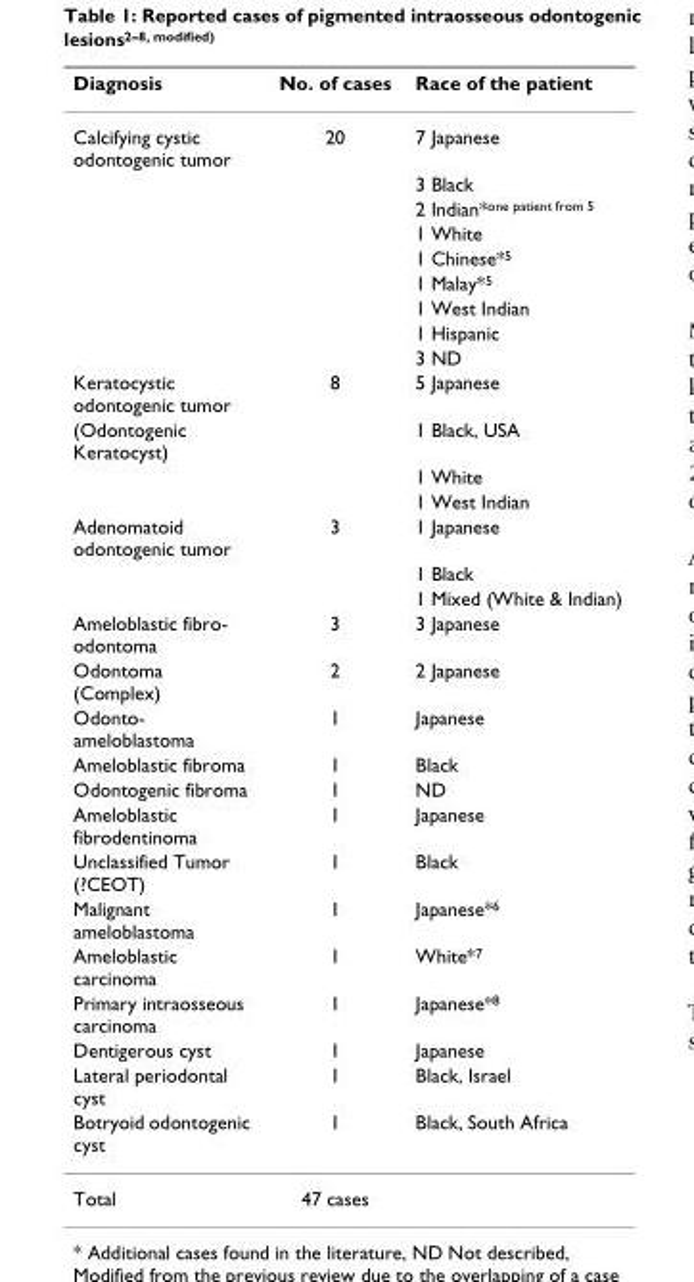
<table><thead><tr><td>Diagnosis</td><td>No. of cases</td><td>Race of the patient</td></tr></thead><tbody><tr><td rowspan="9">Calcifying cystic odontogenic tumor</td><td>20</td><td>7 Japanese</td></tr><tr><td></td><td>3 Black</td></tr><tr><td></td><td>2 Indian*<sup>one patient from 5</sup></td></tr><tr><td></td><td>1 White</td></tr><tr><td></td><td>1 Chinese*<sup>5</sup></td></tr><tr><td></td><td>1 Malay*<sup>5</sup></td></tr><tr><td></td><td>1 West Indian</td></tr><tr><td></td><td>1 Hispanic</td></tr><tr><td></td><td>3 ND</td></tr><tr><td>Keratocystic odontogenic tumor</td><td>8</td><td>5 Japanese</td></tr><tr><td rowspan="3">(Odontogenic Keratocyst)</td><td></td><td>1 Black, USA</td></tr><tr><td></td><td>1 White</td></tr><tr><td></td><td>1 West Indian</td></tr><tr><td rowspan="3">Adenomatoid odontogenic tumor</td><td>3</td><td>1 Japanese</td></tr><tr><td></td><td>1 Black</td></tr><tr><td></td><td>1 Mixed (White &amp; Indian)</td></tr><tr><td>Ameloblastic fibro- odontoma</td><td>3</td><td>3 Japanese</td></tr><tr><td>Odontoma (Complex)</td><td>2</td><td>2 Japanese</td></tr><tr><td>Odonto- ameloblastoma</td><td>1</td><td>Japanese</td></tr><tr><td>Ameloblastic fibroma</td><td>1</td><td>Black</td></tr><tr><td>Odontogenic fibroma</td><td>1</td><td>ND</td></tr><tr><td>Ameloblastic fibrodentinoma</td><td>1</td><td>Japanese</td></tr><tr><td>Unclassified Tumor (?CEOT)</td><td>1</td><td>Black</td></tr><tr><td>Malignant ameloblastoma</td><td>1</td><td>Japanese*<sup>6</sup></td></tr><tr><td>Ameloblastic carcinoma</td><td>1</td><td>White*<sup>7</sup></td></tr><tr><td>Primary intraosseous carcinoma</td><td>1</td><td>Japanese*<sup>8</sup></td></tr><tr><td>Dentigerous cyst</td><td>1</td><td>Japanese</td></tr><tr><td>Lateral periodontal cyst</td><td>1</td><td>Black, Israel</td></tr><tr><td>Botryoid odontogenic cyst</td><td>1</td><td>Black, South Africa</td></tr><tr><td>Total</td><td>47 cases</td><td></td></tr></tbody></table>